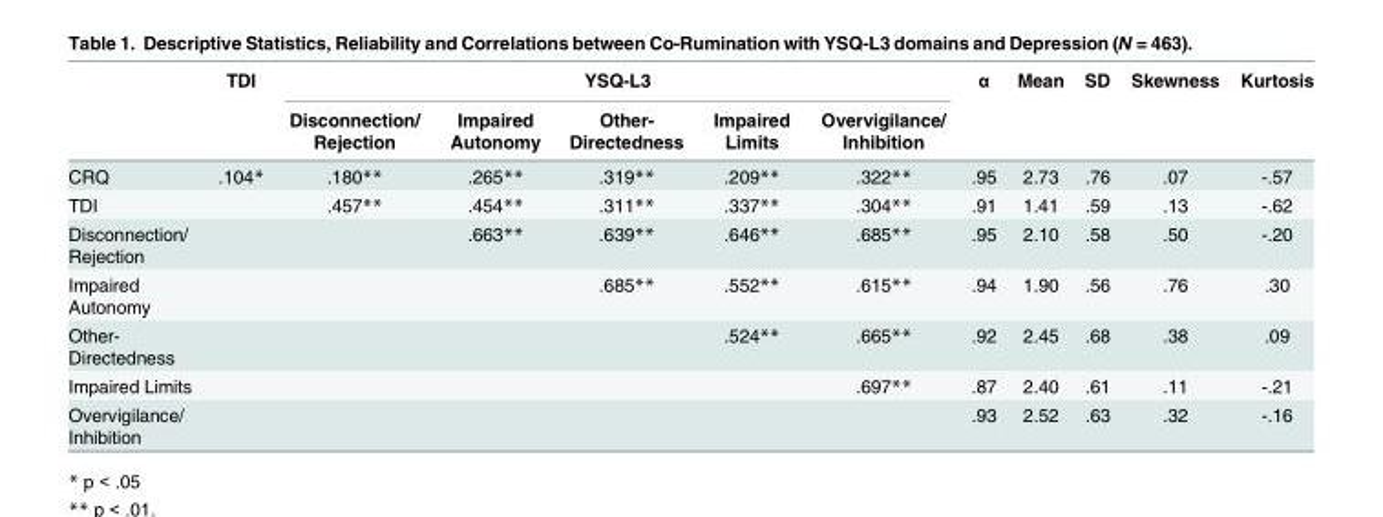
<table><thead><tr><td rowspan="2"></td><td rowspan="2">TDI</td><td colspan="5">YSQ-L3</td><td rowspan="2">α</td><td rowspan="2">Mean</td><td rowspan="2">SD</td><td rowspan="2">Skewness</td><td rowspan="2">Kurtosis</td></tr><tr><td>Disconnection/ Rejection</td><td>Impaired Autonomy</td><td>Other- Directedness</td><td>Impaired Limits</td><td>Overvigilance/ Inhibition</td></tr></thead><tbody><tr><td>CRQ</td><td>.104*</td><td>.180**</td><td>.265**</td><td>.319**</td><td>.209**</td><td>.322**</td><td>.95</td><td>2.73</td><td>.76</td><td>.07</td><td>-.57</td></tr><tr><td>TDI</td><td></td><td>.457**</td><td>.454**</td><td>.311**</td><td>.337**</td><td>.304**</td><td>.91</td><td>1.41</td><td>.59</td><td>.13</td><td>-.62</td></tr><tr><td>Disconnection/ Rejection</td><td></td><td></td><td>.663**</td><td>.639**</td><td>.646**</td><td>.685**</td><td>.95</td><td>2.10</td><td>.58</td><td>.50</td><td>-.20</td></tr><tr><td>Impaired Autonomy</td><td></td><td></td><td></td><td>.685**</td><td>.552**</td><td>.615**</td><td>.94</td><td>1.90</td><td>.56</td><td>.76</td><td>.30</td></tr><tr><td>Other- Directedness</td><td></td><td></td><td></td><td></td><td>.524**</td><td>.665**</td><td>.92</td><td>2.45</td><td>.68</td><td>.38</td><td>.09</td></tr><tr><td>Impaired Limits</td><td></td><td></td><td></td><td></td><td></td><td>.697**</td><td>.87</td><td>2.40</td><td>.61</td><td>.11</td><td>-.21</td></tr><tr><td>Overvigilance/ Inhibition</td><td></td><td></td><td></td><td></td><td></td><td></td><td>.93</td><td>2.52</td><td>.63</td><td>.32</td><td>-.16</td></tr></tbody></table>